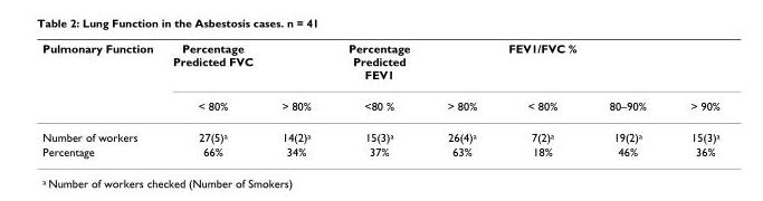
<table><thead><tr><td rowspan="2">Pulmonary Function</td><td rowspan="2">Percentage Predicted FVC &lt; 80%</td><td rowspan="2">&gt; 80%</td><td rowspan="2">Percentage Predicted FEV1 &lt;80 %</td><td rowspan="2">&gt; 80%</td><td rowspan="2">FEV1/FVC % &lt; 80%</td><td rowspan="2">80–90%</td><td rowspan="2">&gt; 90%</td></tr><tr></tr></thead><tbody><tr><td>Number of workers</td><td>27(5)<sup>a</sup></td><td>14(2)<sup>a</sup></td><td>15(3)<sup>a</sup></td><td>26(4)<sup>a</sup></td><td>7(2)<sup>a</sup></td><td>19(2)<sup>a</sup></td><td>15(3)<sup>a</sup></td></tr><tr><td>Percentage</td><td>66%</td><td>34%</td><td>37%</td><td>63%</td><td>18%</td><td>46%</td><td>36%</td></tr></tbody></table>